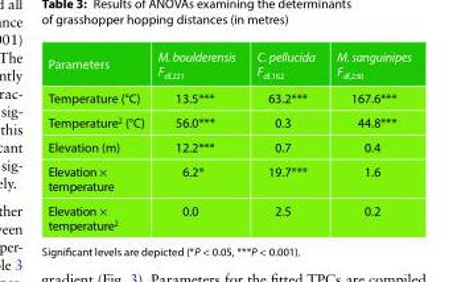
<table><thead><tr><td>Parameters</td><td>M. boulderensis F<sub>df,221</sub></td><td>C. pellucida F<sub>df,162</sub></td><td>M. sanguinipes F<sub>df,230</sub></td></tr></thead><tbody><tr><td>Temperature (°C)</td><td>13.5***</td><td>63.2***</td><td>167.6***</td></tr><tr><td>Temperature<sup>2</sup> (°C)</td><td>56.0***</td><td>0.3</td><td>44.8***</td></tr><tr><td>Elevation (m)</td><td>12.2***</td><td>0.7</td><td>0.4</td></tr><tr><td>Elevation × temperature</td><td>6.2*</td><td>19.7***</td><td>1.6</td></tr><tr><td>Elevation × temperature<sup>2</sup></td><td>0.0</td><td>2.5</td><td>0.2</td></tr></tbody></table>